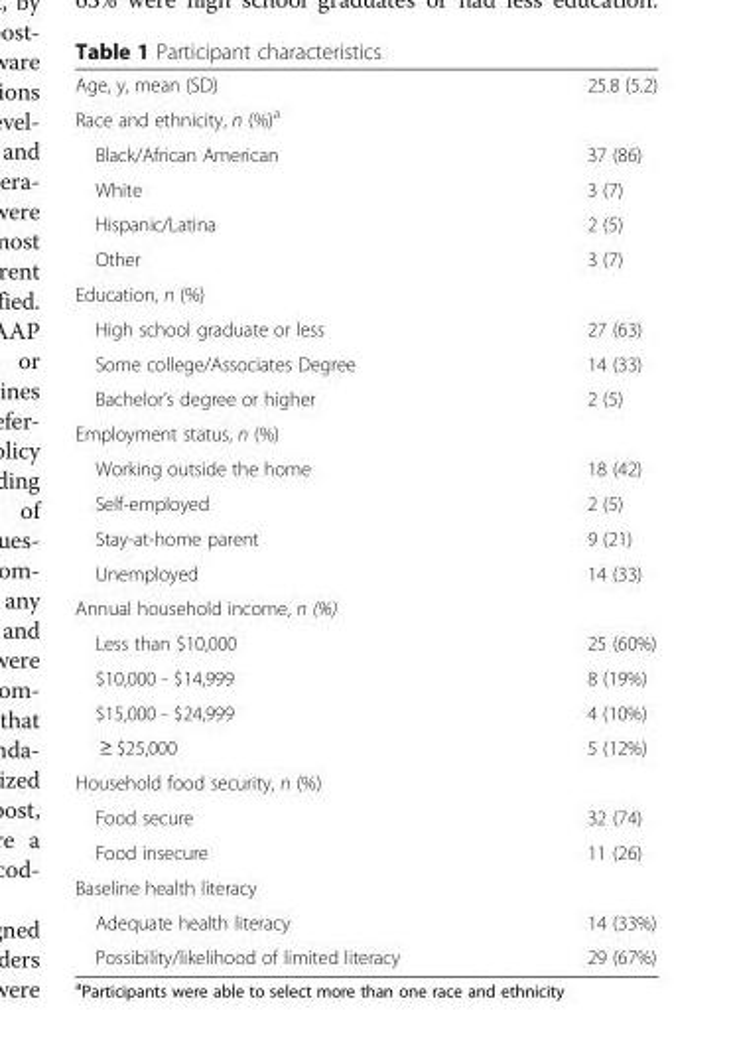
<table><tbody><tr><td>Age, y, mean (SD)</td><td>25.8 (5.2)</td></tr><tr><td colspan="2">Race and ethnicity, n (%)<sup>a</sup></td></tr><tr><td>Black/African American</td><td>37 (86)</td></tr><tr><td>White</td><td>3 (7)</td></tr><tr><td>Hispanic/Latina</td><td>2 (5)</td></tr><tr><td>Other</td><td>3 (7)</td></tr><tr><td colspan="2">Education, n (%)</td></tr><tr><td>High school graduate or less</td><td>27 (63)</td></tr><tr><td>Some college/Associates Degree</td><td>14 (33)</td></tr><tr><td>Bachelor’s degree or higher</td><td>2 (5)</td></tr><tr><td colspan="2">Employment status, n (%)</td></tr><tr><td>Working outside the home</td><td>18 (42)</td></tr><tr><td>Self-employed</td><td>2 (5)</td></tr><tr><td>Stay-at-home parent</td><td>9 (21)</td></tr><tr><td>Unemployed</td><td>14 (33)</td></tr><tr><td colspan="2">Annual household income, n (%)</td></tr><tr><td>Less than $10,000</td><td>25 (60%)</td></tr><tr><td>$10,000 - $14,999</td><td>8 (19%)</td></tr><tr><td>$15,000 - $24,999</td><td>4 (10%)</td></tr><tr><td>≥ $25,000</td><td>5 (12%)</td></tr><tr><td colspan="2">Household food security, n (%)</td></tr><tr><td>Food secure</td><td>32 (74)</td></tr><tr><td>Food insecure</td><td>11 (26)</td></tr><tr><td colspan="2">Baseline health literacy</td></tr><tr><td>Adequate health literacy</td><td>14 (33%)</td></tr><tr><td>Possibility/likelihood of limited literacy</td><td>29 (67%)</td></tr></tbody></table>